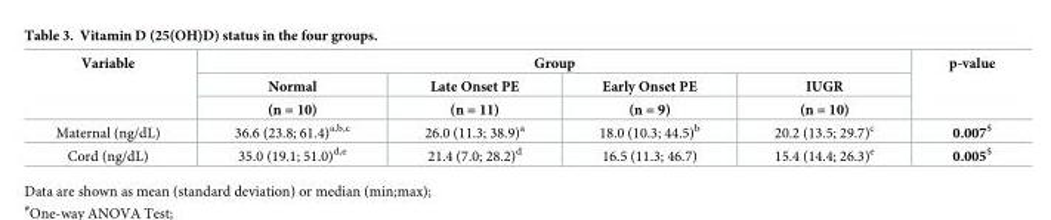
<table><thead><tr><td rowspan="3">Variable</td><td colspan="4">Group</td><td rowspan="3">p-value</td></tr><tr><td rowspan="2">Normal (n = 10)</td><td rowspan="2">Late Onset PE (n = 11)</td><td rowspan="2">Early Onset PE (n = 9)</td><td rowspan="2">IUGR (n = 10)</td></tr><tr></tr></thead><tbody><tr><td>Maternal (ng/dL)</td><td>36.6 (23.8; 61.4)<sup>a,b,c</sup></td><td>26.0 (11.3; 38.9)<sup>a</sup></td><td>18.0 (10.3; 44.5)<sup>b</sup></td><td>20.2 (13.5; 29.7)<sup>c</sup></td><td>0.007<sup>$</sup></td></tr><tr><td>Cord (ng/dL)</td><td>35.0 (19.1; 51.0)<sup>d,e</sup></td><td>21.4 (7.0; 28.2)<sup>d</sup></td><td>16.5 (11.3; 46.7)</td><td>15.4 (14.4; 26.3)<sup>e</sup></td><td>0.005<sup>$</sup></td></tr></tbody></table>